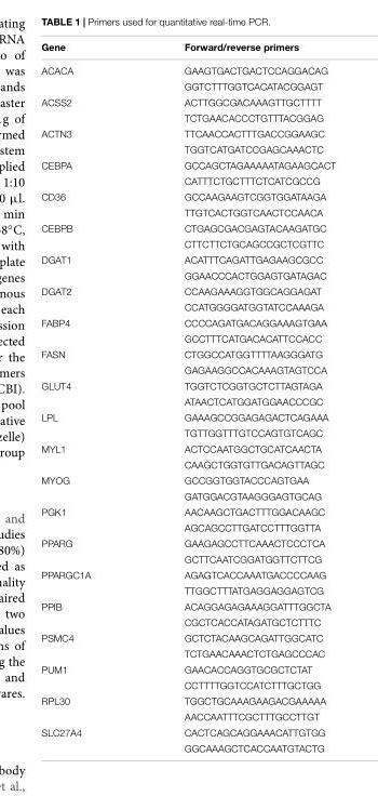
<table><thead><tr><td>Gene</td><td>Forward/reverse primers</td></tr></thead><tbody><tr><td rowspan="2">ACACA</td><td>GAAGTGACTGACTCCAGGACAG</td></tr><tr><td>GGTCTTTGGTCACATACGGAGT</td></tr><tr><td rowspan="2">ACSS2</td><td>ACTTGGCGACAAAGTTGCTTTT</td></tr><tr><td>TCTGAACACCCTGTTTACGGAG</td></tr><tr><td rowspan="2">ACTN3</td><td>TTCAACCACTTTGACCGGAAGC</td></tr><tr><td>TGGTCATGATCCGAGCAAACTC</td></tr><tr><td rowspan="2">CEBPA</td><td>GCCAGCTAGAAAAATAGAAGCACT</td></tr><tr><td>CATTTCTGCTTTCTCATCGCCG</td></tr><tr><td rowspan="2">CD36</td><td>GCCAAGAAGTCGGTGGATAAGA</td></tr><tr><td>TTGTCACTGGTCAACTCCAACA</td></tr><tr><td rowspan="2">CEBPB</td><td>CTGAGCGACGAGTACAAGATGC</td></tr><tr><td>CTTCTTCTGCAGCCGCTCGTTC</td></tr><tr><td rowspan="2">DGAT1</td><td>ACATTTCAGATTGAGAAGCGCC</td></tr><tr><td>GGAACCCACTGGAGTGATAGAC</td></tr><tr><td rowspan="2">DGAT2</td><td>CCAAGAAAGGTGGCAGGAGAT</td></tr><tr><td>CCATGGGGATGGTATCCAAAGA</td></tr><tr><td rowspan="2">FABP4</td><td>CCCCAGATGACAGGAAAGTGAA</td></tr><tr><td>GCCTTTCATGACACATTCCACC</td></tr><tr><td rowspan="2">FASN</td><td>CTGGCCATGGTTTTAAGGGATG</td></tr><tr><td>GAGAAGGCCACAAAGTAGTCCA</td></tr><tr><td rowspan="2">GLUT4</td><td>TGGTCTCGGTGCTCTTAGTAGA</td></tr><tr><td>ATAACTCATGGATGGAACCCGC</td></tr><tr><td rowspan="2">LPL</td><td>GAAAGCCGGAGAGACTCAGAAA</td></tr><tr><td>TGTTGGTTTGTCCAGTGTCAGC</td></tr><tr><td rowspan="2">MYL1</td><td>ACTCCAATGGCTGCATCAACTA</td></tr><tr><td>CAAGCTGGTGTTGACAGTTAGC</td></tr><tr><td rowspan="2">MYOG</td><td>GCCGGTGGTACCCAGTGAA</td></tr><tr><td>GATGGACGTAAGGGAGTGCAG</td></tr><tr><td rowspan="2">PGK1</td><td>AACAAGCTGACTTTGGACAAGC</td></tr><tr><td>AGCAGCCTTGATCCTTTGGTTA</td></tr><tr><td rowspan="2">PPARG</td><td>GAAGAGCCTTCAAACTCCCTCA</td></tr><tr><td>GCTTCAATCGGATGGTTCTTCG</td></tr><tr><td rowspan="2">PPARGC1A</td><td>AGAGTCACCAAATGACCCCAAG</td></tr><tr><td>TTGGCTTTATGAGGAGGAGTCG</td></tr><tr><td rowspan="2">PPIB</td><td>ACAGGAGAGAAAGGATTTGGCTA</td></tr><tr><td>CGCTCACCATAGATGCTCTTTC</td></tr><tr><td rowspan="2">PSMC4</td><td>GCTCTACAAGCAGATTGGCATC</td></tr><tr><td>TCTGAACAAACTCTGAGCCCAC</td></tr><tr><td rowspan="2">PUM1</td><td>GAACACCAGGTGCGCTCTAT</td></tr><tr><td>CCTTTTGGTCCATCTTTGCTGG</td></tr><tr><td rowspan="2">RPL30</td><td>TGGCTGCAAAGAAGACGAAAAA</td></tr><tr><td>AACCAATTTCGCTTTGCCTTGT</td></tr><tr><td rowspan="2">SLC27A4</td><td>CACTCAGCAGGAAACATTGTGG</td></tr><tr><td>GGCAAAGCTCACCAATGTACTG</td></tr></tbody></table>